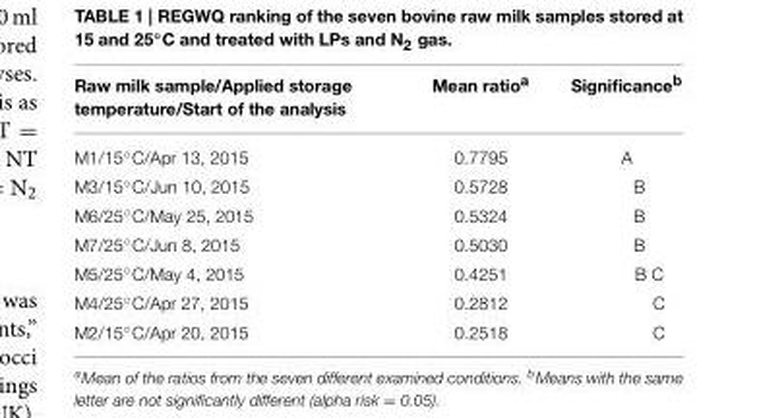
<table><thead><tr><td>Raw milk sample/Applied storage temperature/Start of the analysis</td><td>Mean ratio<sup>a</sup></td><td>Significance<sup>b</sup></td></tr></thead><tbody><tr><td>M1/15◦C/Apr 13, 2015</td><td>0.7795</td><td>A</td></tr><tr><td>M3/15◦C/Jun 10, 2015</td><td>0.5728</td><td>B</td></tr><tr><td>M6/25◦C/May 25, 2015</td><td>0.5324</td><td>B</td></tr><tr><td>M7/25◦C/Jun 8, 2015</td><td>0.5030</td><td>B</td></tr><tr><td>M5/25◦C/May 4, 2015</td><td>0.4251</td><td>B C</td></tr><tr><td>M4/25◦C/Apr 27, 2015</td><td>0.2812</td><td>C</td></tr><tr><td>M2/15◦C/Apr 20, 2015</td><td>0.2518</td><td>C</td></tr></tbody></table>